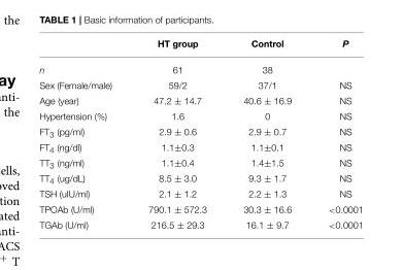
<table><thead><tr><td></td><td>HT group</td><td>Control</td><td>P</td></tr></thead><tbody><tr><td>n</td><td>61</td><td>38</td><td></td></tr><tr><td>Sex (Female/male)</td><td>59/2</td><td>37/1</td><td>NS</td></tr><tr><td>Age (year)</td><td>47.2 ± 14.7</td><td>40.6 ± 16.9</td><td>NS</td></tr><tr><td>Hypertension (%)</td><td>1.6</td><td>0</td><td>NS</td></tr><tr><td>FT<sub>3</sub> (pg/ml)</td><td>2.9 ± 0.6</td><td>2.9 ± 0.7</td><td>NS</td></tr><tr><td>FT<sub>4</sub> (ng/dl)</td><td>1.1±0.3</td><td>1.1±0.1</td><td>NS</td></tr><tr><td>TT<sub>3</sub> (ng/ml)</td><td>1.1±0.4</td><td>1.4±1.5</td><td>NS</td></tr><tr><td>TT<sub>4</sub> (ug/dL)</td><td>8.5 ± 3.0</td><td>9.3 ± 1.7</td><td>NS</td></tr><tr><td>TSH (uIU/ml)</td><td>2.1 ± 1.2</td><td>2.2 ± 1.3</td><td>NS</td></tr><tr><td>TPOAb (U/ml)</td><td>790.1 ± 572.3</td><td>30.3 ± 16.6</td><td>&lt;0.0001</td></tr><tr><td>TGAb (U/ml)</td><td>216.5 ± 29.3</td><td>16.1 ± 9.7</td><td>&lt;0.0001</td></tr></tbody></table>